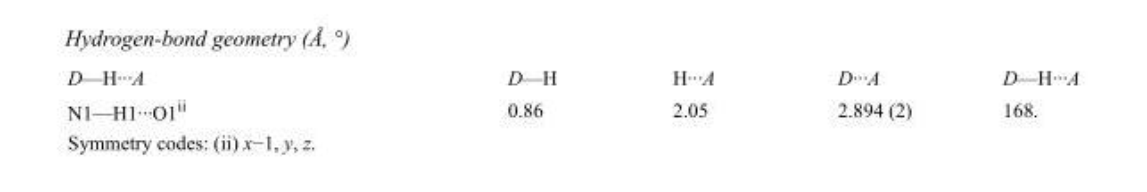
<table><tbody><tr><td>D—H···A</td><td>D—H</td><td>H···A</td><td>D···A</td><td>D—H···A</td></tr><tr><td>N1—H1···O1<sup>ii</sup></td><td>0.86</td><td>2.05</td><td>2.894 (2)</td><td>168.</td></tr></tbody></table>